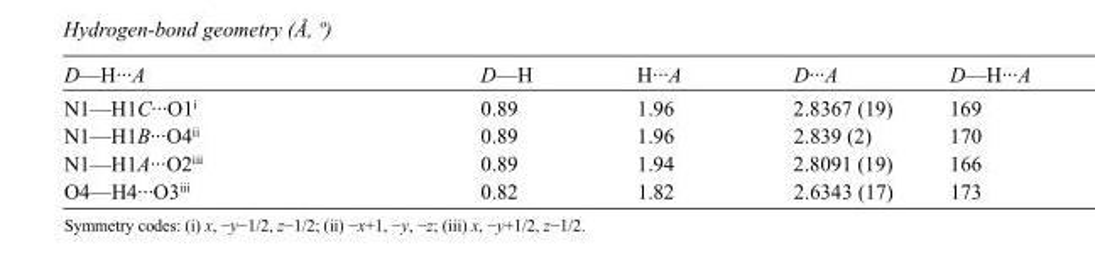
<table><tbody><tr><td>D—H···A</td><td>D—H</td><td>H···A</td><td>D···A</td><td>D—H···A</td></tr><tr><td>N1—H1C···O1<sup>i</sup></td><td>0.89</td><td>1.96</td><td>2.8367 (19)</td><td>169</td></tr><tr><td>N1—H1B···O4<sup>ii</sup></td><td>0.89</td><td>1.96</td><td>2.839 (2)</td><td>170</td></tr><tr><td>N1—H1A···O2<sup>iii</sup></td><td>0.89</td><td>1.94</td><td>2.8091 (19)</td><td>166</td></tr><tr><td>O4—H4···O3<sup>iii</sup></td><td>0.82</td><td>1.82</td><td>2.6343 (17)</td><td>173</td></tr></tbody></table>